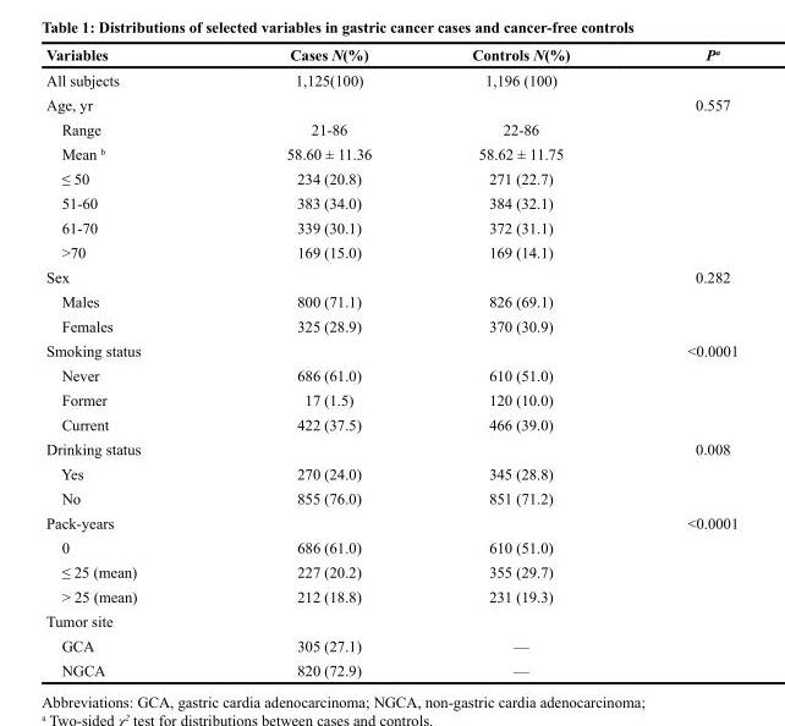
<table><thead><tr><td>Variables</td><td>Cases N(%)</td><td>Controls N(%)</td><td>P <sup>a</sup></td></tr></thead><tbody><tr><td>All subjects</td><td>1,125(100)</td><td>1,196 (100)</td><td></td></tr><tr><td>Age, yr</td><td></td><td></td><td>0.557</td></tr><tr><td>Range</td><td>21-86</td><td>22-86</td><td></td></tr><tr><td>Mean <sup>b</sup></td><td>58.60 ± 11.36</td><td>58.62 ± 11.75</td><td></td></tr><tr><td>≤ 50</td><td>234 (20.8)</td><td>271 (22.7)</td><td></td></tr><tr><td>51-60</td><td>383 (34.0)</td><td>384 (32.1)</td><td></td></tr><tr><td>61-70</td><td>339 (30.1)</td><td>372 (31.1)</td><td></td></tr><tr><td>&gt;70</td><td>169 (15.0)</td><td>169 (14.1)</td><td></td></tr><tr><td>Sex</td><td></td><td></td><td>0.282</td></tr><tr><td>Males</td><td>800 (71.1)</td><td>826 (69.1)</td><td></td></tr><tr><td>Females</td><td>325 (28.9)</td><td>370 (30.9)</td><td></td></tr><tr><td>Smoking status</td><td></td><td></td><td>&lt;0.0001</td></tr><tr><td>Never</td><td>686 (61.0)</td><td>610 (51.0)</td><td></td></tr><tr><td>Former</td><td>17 (1.5)</td><td>120 (10.0)</td><td></td></tr><tr><td>Current</td><td>422 (37.5)</td><td>466 (39.0)</td><td></td></tr><tr><td>Drinking status</td><td></td><td></td><td>0.008</td></tr><tr><td>Yes</td><td>270 (24.0)</td><td>345 (28.8)</td><td></td></tr><tr><td>No</td><td>855 (76.0)</td><td>851 (71.2)</td><td></td></tr><tr><td>Pack-years</td><td></td><td></td><td>&lt;0.0001</td></tr><tr><td>0</td><td>686 (61.0)</td><td>610 (51.0)</td><td></td></tr><tr><td>≤ 25 (mean)</td><td>227 (20.2)</td><td>355 (29.7)</td><td></td></tr><tr><td>&gt; 25 (mean)</td><td>212 (18.8)</td><td>231 (19.3)</td><td></td></tr><tr><td colspan="4">Tumor site</td></tr><tr><td>GCA</td><td>305 (27.1)</td><td>—</td><td></td></tr><tr><td>NGCA</td><td>820 (72.9)</td><td>—</td><td></td></tr></tbody></table>